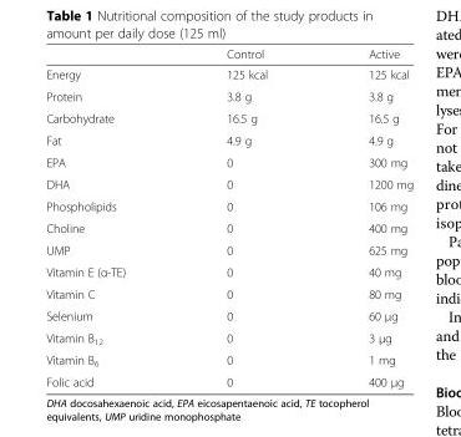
<table><thead><tr><td></td><td>Control</td><td>Active</td></tr></thead><tbody><tr><td>Energy</td><td>125 kcal</td><td>125 kcal</td></tr><tr><td>Protein</td><td>3.8 g</td><td>3.8 g</td></tr><tr><td>Carbohydrate</td><td>16.5 g</td><td>16.5 g</td></tr><tr><td>Fat</td><td>4.9 g</td><td>4.9 g</td></tr><tr><td>EPA</td><td>0</td><td>300 mg</td></tr><tr><td>DHA</td><td>0</td><td>1200 mg</td></tr><tr><td>Phospholipids</td><td>0</td><td>106 mg</td></tr><tr><td>Choline</td><td>0</td><td>400 mg</td></tr><tr><td>UMP</td><td>0</td><td>625 mg</td></tr><tr><td>Vitamin E (α-TE)</td><td>0</td><td>40 mg</td></tr><tr><td>Vitamin C</td><td>0</td><td>80 mg</td></tr><tr><td>Selenium</td><td>0</td><td>60 μg</td></tr><tr><td>Vitamin B<sub>12</sub></td><td>0</td><td>3 μg</td></tr><tr><td>Vitamin B<sub>6</sub></td><td>0</td><td>1 mg</td></tr><tr><td>Folic acid</td><td>0</td><td>400 μg</td></tr></tbody></table>